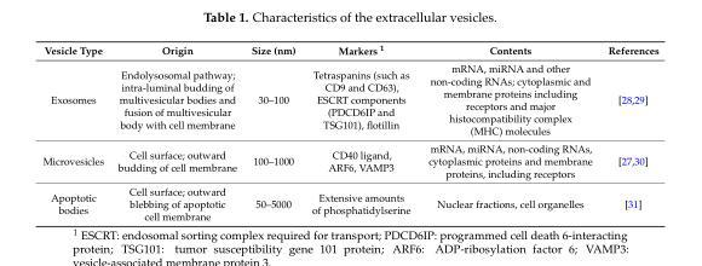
<table><thead><tr><td>Vesicle Type</td><td>Origin</td><td>Size (nm)</td><td>Markers <sup>1</sup></td><td>Contents</td><td>References</td></tr></thead><tbody><tr><td>Exosomes</td><td>Endolysosomal pathway; intra-luminal budding of multivesicular bodies and fusion of multivesicular body with cell membrane</td><td>30–100</td><td>Tetraspanins (such as CD9 and CD63), ESCRT components (PDCD6IP and TSG101), flotillin</td><td>mRNA, miRNA and other non-coding RNAs; cytoplasmic and membrane proteins including receptors and major histocompatibility complex (MHC) molecules</td><td>[28,29]</td></tr><tr><td>Microvesicles</td><td>Cell surface; outward budding of cell membrane</td><td>100–1000</td><td>CD40 ligand, ARF6, VAMP3</td><td>mRNA, miRNA, non-coding RNAs, cytoplasmic proteins and membrane proteins, including receptors</td><td>[27,30]</td></tr><tr><td>Apoptotic bodies</td><td>Cell surface; outward blebbing of apoptotic cell membrane</td><td>50–5000</td><td>Extensive amounts of phosphatidylserine</td><td>Nuclear fractions, cell organelles</td><td>[31]</td></tr></tbody></table>